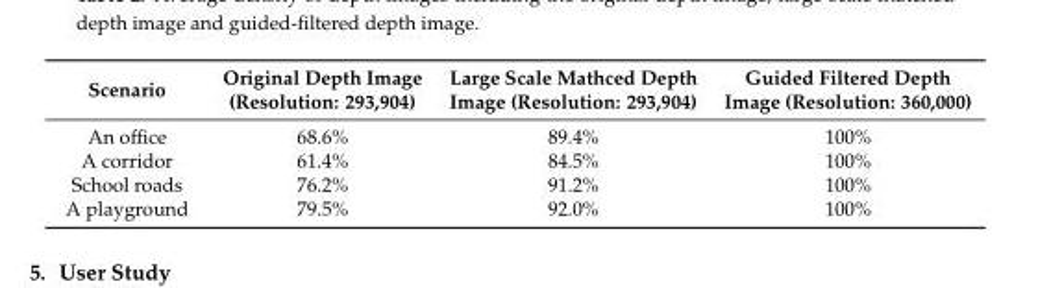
<table><thead><tr><td>Scenario</td><td>Original Depth Image (Resolution: 293,904)</td><td>Large Scale Mathced Depth Image (Resolution: 293,904)</td><td>Guided Filtered Depth Image (Resolution: 360,000)</td></tr></thead><tbody><tr><td>An office</td><td>68.6%</td><td>89.4%</td><td>100%</td></tr><tr><td>A corridor</td><td>61.4%</td><td>84.5%</td><td>100%</td></tr><tr><td>School roads</td><td>76.2%</td><td>91.2%</td><td>100%</td></tr><tr><td>A playground</td><td>79.5%</td><td>92.0%</td><td>100%</td></tr></tbody></table>